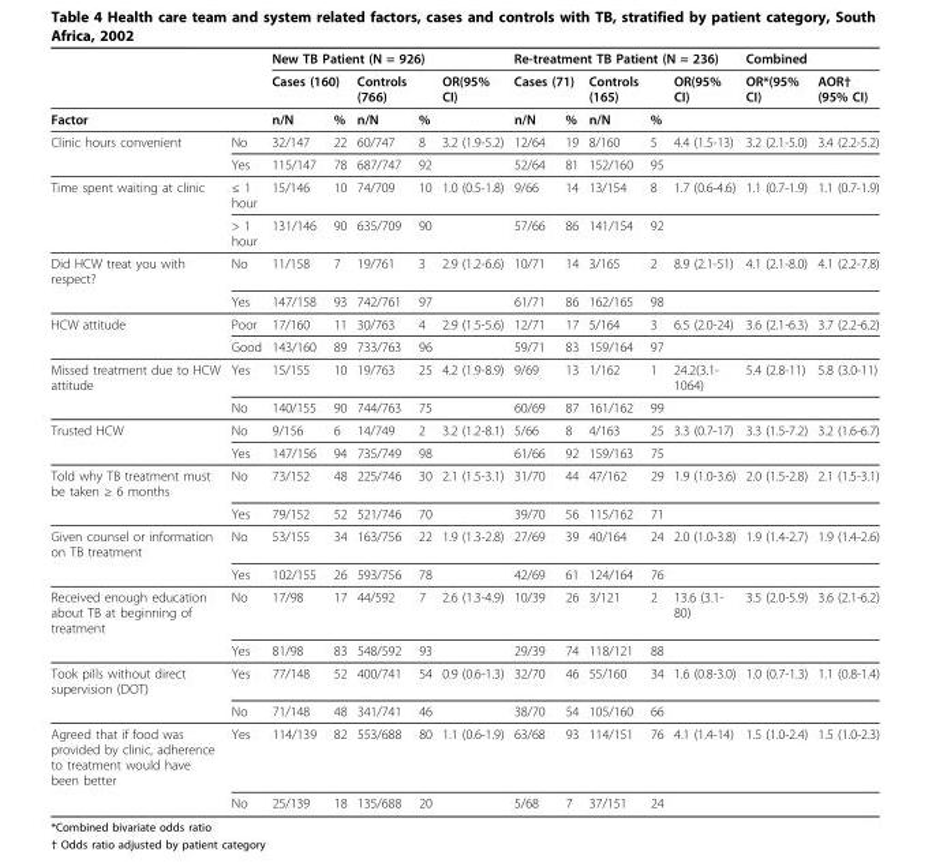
<table><thead><tr><td rowspan="2"></td><td rowspan="2"></td><td colspan="5">New TB Patient (N = 926)</td><td colspan="5">Re-treatment TB Patient (N = 236)</td><td colspan="2">Combined</td></tr><tr><td colspan="2">Cases (160)</td><td colspan="2">Controls (766)</td><td rowspan="2">OR(95% CI)</td><td colspan="2">Cases (71)</td><td colspan="2">Controls (165)</td><td rowspan="2">OR(95% CI)</td><td rowspan="2">OR*(95% CI)</td><td rowspan="2">AOR† (95% CI)</td></tr><tr><td colspan="2">Factor</td><td>n/N</td><td>%</td><td>n/N</td><td>%</td><td>n/N</td><td>%</td><td>n/N</td><td>%</td></tr></thead><tbody><tr><td rowspan="2">Clinic hours convenient</td><td>No</td><td>32/147</td><td>22</td><td>60/747</td><td>8</td><td>3.2 (1.9-5.2)</td><td>12/64</td><td>19</td><td>8/160</td><td>5</td><td>4.4 (1.5-13)</td><td>3.2 (2.1-5.0)</td><td>3.4 (2.2-5.2)</td></tr><tr><td>Yes</td><td>115/147</td><td>78</td><td>687/747</td><td>92</td><td></td><td>52/64</td><td>81</td><td>152/160</td><td>95</td><td></td><td></td><td></td></tr><tr><td rowspan="2">Time spent waiting at clinic</td><td>≤ 1 hour</td><td>15/146</td><td>10</td><td>74/709</td><td>10</td><td>1.0 (0.5-1.8)</td><td>9/66</td><td>14</td><td>13/154</td><td>8</td><td>1.7 (0.6-4.6)</td><td>1.1 (0.7-1.9)</td><td>1.1 (0.7-1.9)</td></tr><tr><td>&gt; 1 hour</td><td>131/146</td><td>90</td><td>635/709</td><td>90</td><td></td><td>57/66</td><td>86</td><td>141/154</td><td>92</td><td></td><td></td><td></td></tr><tr><td rowspan="2">Did HCW treat you with respect?</td><td>No</td><td>11/158</td><td>7</td><td>19/761</td><td>3</td><td>2.9 (1.2-6.6)</td><td>10/71</td><td>14</td><td>3/165</td><td>2</td><td>8.9 (2.1-51)</td><td>4.1 (2.1-8.0)</td><td>4.1 (2.2-7.8)</td></tr><tr><td>Yes</td><td>147/158</td><td>93</td><td>742/761</td><td>97</td><td></td><td>61/71</td><td>86</td><td>162/165</td><td>98</td><td></td><td></td><td></td></tr><tr><td rowspan="2">HCW attitude</td><td>Poor</td><td>17/160</td><td>11</td><td>30/763</td><td>4</td><td>2.9 (1.5-5.6)</td><td>12/71</td><td>17</td><td>5/164</td><td>3</td><td>6.5 (2.0-24)</td><td>3.6 (2.1-6.3)</td><td>3.7 (2.2-6.2)</td></tr><tr><td>Good</td><td>143/160</td><td>89</td><td>733/763</td><td>96</td><td></td><td>59/71</td><td>83</td><td>159/164</td><td>97</td><td></td><td></td><td></td></tr><tr><td rowspan="2">Missed treatment due to HCW attitude</td><td>Yes</td><td>15/155</td><td>10</td><td>19/763</td><td>25</td><td>4.2 (1.9-8.9)</td><td>9/69</td><td>13</td><td>1/162</td><td>1</td><td>24.2(3.1- 1064)</td><td>5.4 (2.8-11)</td><td>5.8 (3.0-11)</td></tr><tr><td>No</td><td>140/155</td><td>90</td><td>744/763</td><td>75</td><td></td><td>60/69</td><td>87</td><td>161/162</td><td>99</td><td></td><td></td><td></td></tr><tr><td rowspan="2">Trusted HCW</td><td>No</td><td>9/156</td><td>6</td><td>14/749</td><td>2</td><td>3.2 (1.2-8.1)</td><td>5/66</td><td>8</td><td>4/163</td><td>25</td><td>3.3 (0.7-17)</td><td>3.3 (1.5-7.2)</td><td>3.2 (1.6-6.7)</td></tr><tr><td>Yes</td><td>147/156</td><td>94</td><td>735/749</td><td>98</td><td></td><td>61/66</td><td>92</td><td>159/163</td><td>75</td><td></td><td></td><td></td></tr><tr><td rowspan="2">Told why TB treatment must be taken ≥ 6 months</td><td>No</td><td>73/152</td><td>48</td><td>225/746</td><td>30</td><td>2.1 (1.5-3.1)</td><td>31/70</td><td>44</td><td>47/162</td><td>29</td><td>1.9 (1.0-3.6)</td><td>2.0 (1.5-2.8)</td><td>2.1 (1.5-3.1)</td></tr><tr><td>Yes</td><td>79/152</td><td>52</td><td>521/746</td><td>70</td><td></td><td>39/70</td><td>56</td><td>115/162</td><td>71</td><td></td><td></td><td></td></tr><tr><td rowspan="2">Given counsel or information on TB treatment</td><td>No</td><td>53/155</td><td>34</td><td>163/756</td><td>22</td><td>1.9 (1.3-2.8)</td><td>27/69</td><td>39</td><td>40/164</td><td>24</td><td>2.0 (1.0-3.8)</td><td>1.9 (1.4-2.7)</td><td>1.9 (1.4-2.6)</td></tr><tr><td>Yes</td><td>102/155</td><td>26</td><td>593/756</td><td>78</td><td></td><td>42/69</td><td>61</td><td>124/164</td><td>76</td><td></td><td></td><td></td></tr><tr><td rowspan="2">Received enough education about TB at beginning of treatment</td><td>No</td><td>17/98</td><td>17</td><td>44/592</td><td>7</td><td>2.6 (1.3-4.9)</td><td>10/39</td><td>26</td><td>3/121</td><td>2</td><td>13.6 (3.1- 80)</td><td>3.5 (2.0-5.9)</td><td>3.6 (2.1-6.2)</td></tr><tr><td>Yes</td><td>81/98</td><td>83</td><td>548/592</td><td>93</td><td></td><td>29/39</td><td>74</td><td>118/121</td><td>88</td><td></td><td></td><td></td></tr><tr><td rowspan="2">Took pills without direct supervision (DOT)</td><td>Yes</td><td>77/148</td><td>52</td><td>400/741</td><td>54</td><td>0.9 (0.6-1.3)</td><td>32/70</td><td>46</td><td>55/160</td><td>34</td><td>1.6 (0.8-3.0)</td><td>1.0 (0.7-1.3)</td><td>1.1 (0.8-1.4)</td></tr><tr><td>No</td><td>71/148</td><td>48</td><td>341/741</td><td>46</td><td></td><td>38/70</td><td>54</td><td>105/160</td><td>66</td><td></td><td></td><td></td></tr><tr><td rowspan="2">Agreed that if food was provided by clinic, adherence to treatment would have been better</td><td>Yes</td><td>114/139</td><td>82</td><td>553/688</td><td>80</td><td>1.1 (0.6-1.9)</td><td>63/68</td><td>93</td><td>114/151</td><td>76</td><td>4.1 (1.4-14)</td><td>1.5 (1.0-2.4)</td><td>1.5 (1.0-2.3)</td></tr><tr><td>No</td><td>25/139</td><td>18</td><td>135/688</td><td>20</td><td></td><td>5/68</td><td>7</td><td>37/151</td><td>24</td><td></td><td></td><td></td></tr></tbody></table>